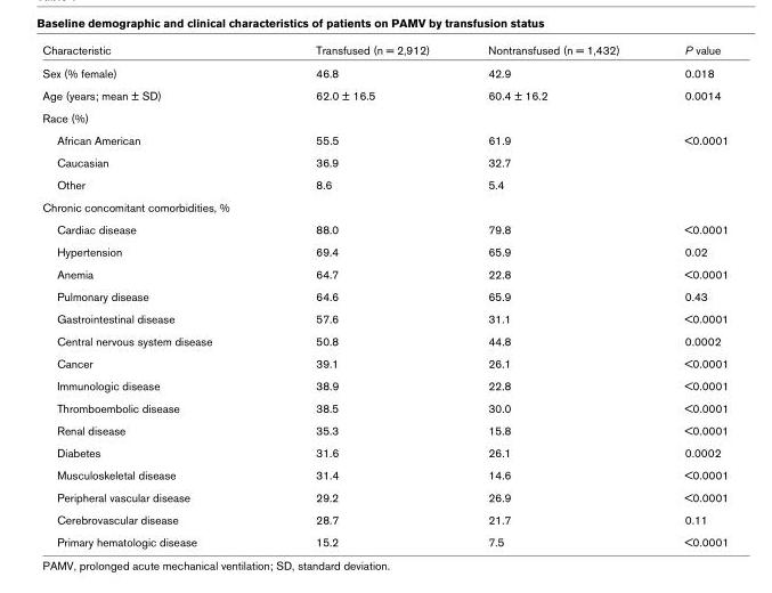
<table><thead><tr><td>Characteristic</td><td>Transfused (n = 2,912)</td><td>Nontransfused (n = 1,432)</td><td>P value</td></tr></thead><tbody><tr><td>Sex (% female)</td><td>46.8</td><td>42.9</td><td>0.018</td></tr><tr><td>Age (years; mean ± SD)</td><td>62.0 ± 16.5</td><td>60.4 ± 16.2</td><td>0.0014</td></tr><tr><td colspan="4">Race (%)</td></tr><tr><td>African American</td><td>55.5</td><td>61.9</td><td>&lt;0.0001</td></tr><tr><td>Caucasian</td><td>36.9</td><td>32.7</td><td></td></tr><tr><td>Other</td><td>8.6</td><td>5.4</td><td></td></tr><tr><td colspan="4">Chronic concomitant comorbidities, %</td></tr><tr><td>Cardiac disease</td><td>88.0</td><td>79.8</td><td>&lt;0.0001</td></tr><tr><td>Hypertension</td><td>69.4</td><td>65.9</td><td>0.02</td></tr><tr><td>Anemia</td><td>64.7</td><td>22.8</td><td>&lt;0.0001</td></tr><tr><td>Pulmonary disease</td><td>64.6</td><td>65.9</td><td>0.43</td></tr><tr><td>Gastrointestinal disease</td><td>57.6</td><td>31.1</td><td>&lt;0.0001</td></tr><tr><td>Central nervous system disease</td><td>50.8</td><td>44.8</td><td>0.0002</td></tr><tr><td>Cancer</td><td>39.1</td><td>26.1</td><td>&lt;0.0001</td></tr><tr><td>Immunologic disease</td><td>38.9</td><td>22.8</td><td>&lt;0.0001</td></tr><tr><td>Thromboembolic disease</td><td>38.5</td><td>30.0</td><td>&lt;0.0001</td></tr><tr><td>Renal disease</td><td>35.3</td><td>15.8</td><td>&lt;0.0001</td></tr><tr><td>Diabetes</td><td>31.6</td><td>26.1</td><td>0.0002</td></tr><tr><td>Musculoskeletal disease</td><td>31.4</td><td>14.6</td><td>&lt;0.0001</td></tr><tr><td>Peripheral vascular disease</td><td>29.2</td><td>26.9</td><td>&lt;0.0001</td></tr><tr><td>Cerebrovascular disease</td><td>28.7</td><td>21.7</td><td>0.11</td></tr><tr><td>Primary hematologic disease</td><td>15.2</td><td>7.5</td><td>&lt;0.0001</td></tr></tbody></table>